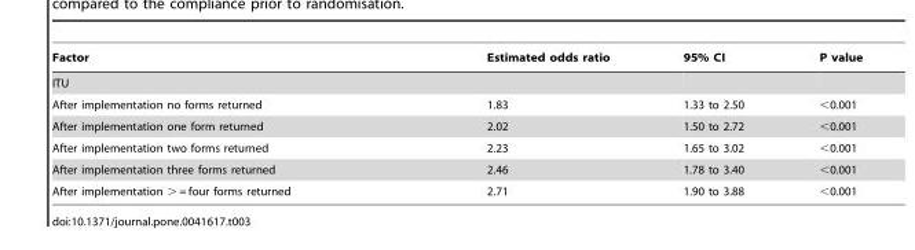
<table><thead><tr><td>Factor</td><td>Estimated odds ratio</td><td>95% CI</td><td>P value</td></tr></thead><tbody><tr><td colspan="4">ITU</td></tr><tr><td>After implementation no forms returned</td><td>1.83</td><td>1.33 to 2.50</td><td>&lt;0.001</td></tr><tr><td>After implementation one form returned</td><td>2.02</td><td>1.50 to 2.72</td><td>&lt;0.001</td></tr><tr><td>After implementation two forms returned</td><td>2.23</td><td>1.65 to 3.02</td><td>&lt;0.001</td></tr><tr><td>After implementation three forms returned</td><td>2.46</td><td>1.78 to 3.40</td><td>&lt;0.001</td></tr><tr><td>After implementation &gt; = four forms returned</td><td>2.71</td><td>1.90 to 3.88</td><td>&lt;0.001</td></tr></tbody></table>